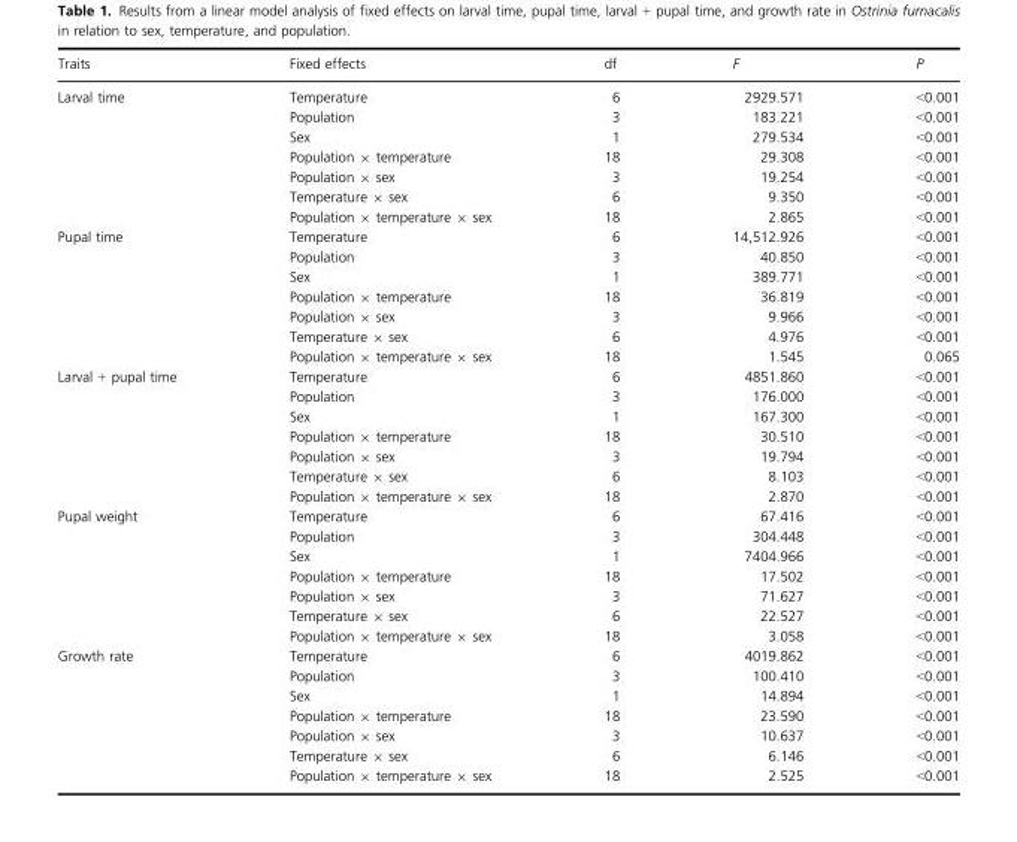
<table><thead><tr><td>Traits</td><td>Fixed effects</td><td>df</td><td>F</td><td>P</td></tr></thead><tbody><tr><td rowspan="7">Larval time</td><td>Temperature</td><td>6</td><td>2929.571</td><td>&lt;0.001</td></tr><tr><td>Population</td><td>3</td><td>183.221</td><td>&lt;0.001</td></tr><tr><td>Sex</td><td>1</td><td>279.534</td><td>&lt;0.001</td></tr><tr><td>Population × temperature</td><td>18</td><td>29.308</td><td>&lt;0.001</td></tr><tr><td>Population × sex</td><td>3</td><td>19.254</td><td>&lt;0.001</td></tr><tr><td>Temperature × sex</td><td>6</td><td>9.350</td><td>&lt;0.001</td></tr><tr><td>Population × temperature × sex</td><td>18</td><td>2.865</td><td>&lt;0.001</td></tr><tr><td rowspan="7">Pupal time</td><td>Temperature</td><td>6</td><td>14,512.926</td><td>&lt;0.001</td></tr><tr><td>Population</td><td>3</td><td>40.850</td><td>&lt;0.001</td></tr><tr><td>Sex</td><td>1</td><td>389.771</td><td>&lt;0.001</td></tr><tr><td>Population × temperature</td><td>18</td><td>36.819</td><td>&lt;0.001</td></tr><tr><td>Population × sex</td><td>3</td><td>9.966</td><td>&lt;0.001</td></tr><tr><td>Temperature × sex</td><td>6</td><td>4.976</td><td>&lt;0.001</td></tr><tr><td>Population × temperature × sex</td><td>18</td><td>1.545</td><td>0.065</td></tr><tr><td rowspan="7">Larval + pupal time</td><td>Temperature</td><td>6</td><td>4851.860</td><td>&lt;0.001</td></tr><tr><td>Population</td><td>3</td><td>176.000</td><td>&lt;0.001</td></tr><tr><td>Sex</td><td>1</td><td>167.300</td><td>&lt;0.001</td></tr><tr><td>Population × temperature</td><td>18</td><td>30.510</td><td>&lt;0.001</td></tr><tr><td>Population × sex</td><td>3</td><td>19.794</td><td>&lt;0.001</td></tr><tr><td>Temperature × sex</td><td>6</td><td>8.103</td><td>&lt;0.001</td></tr><tr><td>Population × temperature × sex</td><td>18</td><td>2.870</td><td>&lt;0.001</td></tr><tr><td rowspan="7">Pupal weight</td><td>Temperature</td><td>6</td><td>67.416</td><td>&lt;0.001</td></tr><tr><td>Population</td><td>3</td><td>304.448</td><td>&lt;0.001</td></tr><tr><td>Sex</td><td>1</td><td>7404.966</td><td>&lt;0.001</td></tr><tr><td>Population × temperature</td><td>18</td><td>17.502</td><td>&lt;0.001</td></tr><tr><td>Population × sex</td><td>3</td><td>71.627</td><td>&lt;0.001</td></tr><tr><td>Temperature × sex</td><td>6</td><td>22.527</td><td>&lt;0.001</td></tr><tr><td>Population × temperature × sex</td><td>18</td><td>3.058</td><td>&lt;0.001</td></tr><tr><td rowspan="7">Growth rate</td><td>Temperature</td><td>6</td><td>4019.862</td><td>&lt;0.001</td></tr><tr><td>Population</td><td>3</td><td>100.410</td><td>&lt;0.001</td></tr><tr><td>Sex</td><td>1</td><td>14.894</td><td>&lt;0.001</td></tr><tr><td>Population × temperature</td><td>18</td><td>23.590</td><td>&lt;0.001</td></tr><tr><td>Population × sex</td><td>3</td><td>10.637</td><td>&lt;0.001</td></tr><tr><td>Temperature × sex</td><td>6</td><td>6.146</td><td>&lt;0.001</td></tr><tr><td>Population × temperature × sex</td><td>18</td><td>2.525</td><td>&lt;0.001</td></tr></tbody></table>